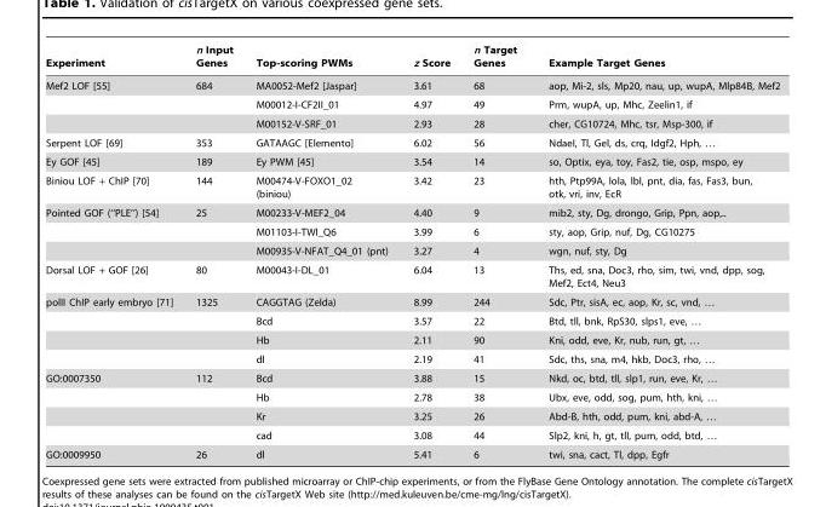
<table><thead><tr><td>Experiment</td><td>n Input Genes</td><td>Top-scoring PWMs</td><td>z Score</td><td>n Target Genes</td><td>Example Target Genes</td></tr></thead><tbody><tr><td rowspan="3">Mef2 LOF [55]</td><td>684</td><td>MA0052-Mef2 [Jaspar]</td><td>3.61</td><td>68</td><td>aop, Mi-2, sls, Mp20, nau, up, wupA, Mlp84B, Mef2</td></tr><tr><td></td><td>M00012-I-CF2II_01</td><td>4.97</td><td>49</td><td>Prm, wupA, up, Mhc, Zeelin1, if</td></tr><tr><td></td><td>M00152-V-SRF_01</td><td>2.93</td><td>28</td><td>cher, CG10724, Mhc, tsr, Msp-300, if</td></tr><tr><td>Serpent LOF [69]</td><td>353</td><td>GATAAGC [Elemento]</td><td>6.02</td><td>56</td><td>NdaeI, Tl, Gel, ds, crq, Idgf2, Hph, …</td></tr><tr><td>Ey GOF [45]</td><td>189</td><td>Ey PWM [45]</td><td>3.54</td><td>14</td><td>so, Optix, eya, toy, Fas2, tie, osp, mspo, ey</td></tr><tr><td>Biniou LOF + ChIP [70]</td><td>144</td><td>M00474-V-FOXO1_02 (biniou)</td><td>3.42</td><td>23</td><td>hth, Ptp99A, lola, lbl, pnt, dia, fas, Fas3, bun, otk, vri, inv, EcR</td></tr><tr><td rowspan="3">Pointed GOF (‘‘PLE’’) [54]</td><td>25</td><td>M00233-V-MEF2_04</td><td>4.40</td><td>9</td><td>mib2, sty, Dg, drongo, Grip, Ppn, aop,..</td></tr><tr><td></td><td>M01103-I-TWI_Q6</td><td>3.99</td><td>6</td><td>sty, aop, Grip, nuf, Dg, CG10275</td></tr><tr><td></td><td>M00935-V-NFAT_Q4_01 (pnt)</td><td>3.27</td><td>4</td><td>wgn, nuf, sty, Dg</td></tr><tr><td>Dorsal LOF + GOF [26]</td><td>80</td><td>M00043-I-DL_01</td><td>6.04</td><td>13</td><td>Ths, ed, sna, Doc3, rho, sim, twi, vnd, dpp, sog, Mef2, Ect4, Neu3</td></tr><tr><td rowspan="4">polII ChIP early embryo [71]</td><td>1325</td><td>CAGGTAG (Zelda)</td><td>8.99</td><td>244</td><td>Sdc, Ptr, sisA, ec, aop, Kr, sc, vnd, …</td></tr><tr><td></td><td>Bcd</td><td>3.57</td><td>22</td><td>Btd, tll, bnk, RpS30, slps1, eve, …</td></tr><tr><td></td><td>Hb</td><td>2.11</td><td>90</td><td>Kni, odd, eve, Kr, nub, run, gt, …</td></tr><tr><td></td><td>dl</td><td>2.19</td><td>41</td><td>Sdc, ths, sna, m4, hkb, Doc3, rho, …</td></tr><tr><td rowspan="4">GO:0007350</td><td>112</td><td>Bcd</td><td>3.88</td><td>15</td><td>Nkd, oc, btd, tll, slp1, run, eve, Kr, …</td></tr><tr><td></td><td>Hb</td><td>2.78</td><td>38</td><td>Ubx, eve, odd, sog, pum, hth, kni, …</td></tr><tr><td></td><td>Kr</td><td>3.25</td><td>26</td><td>Abd-B, hth, odd, pum, kni, abd-A, …</td></tr><tr><td></td><td>cad</td><td>3.08</td><td>44</td><td>Slp2, kni, h, gt, tll, pum, odd, btd, …</td></tr><tr><td>GO:0009950</td><td>26</td><td>dl</td><td>5.41</td><td>6</td><td>twi, sna, cact, Tl, dpp, Egfr</td></tr></tbody></table>